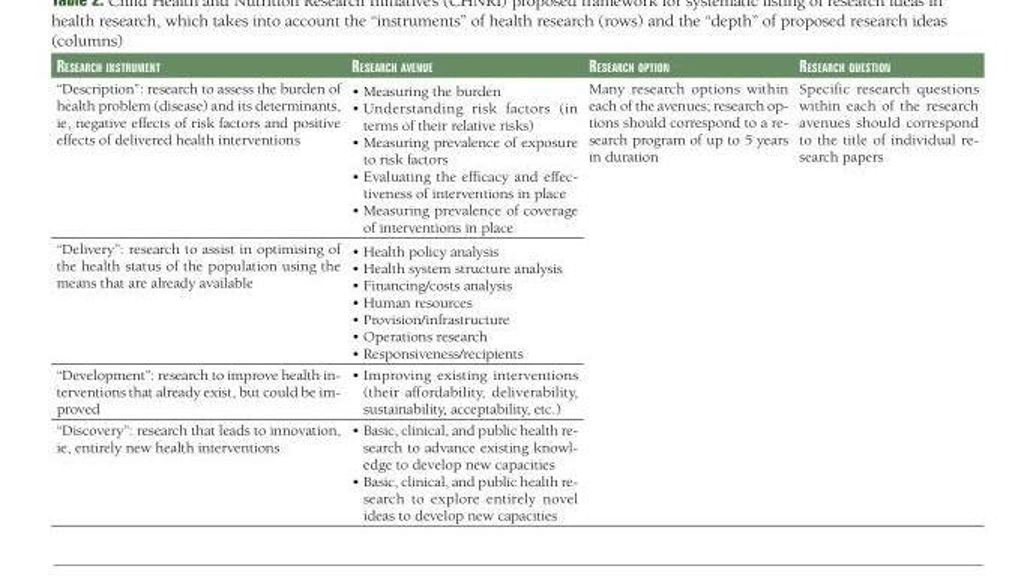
<table><thead><tr><td>ReseaRch instRument</td><td>ReseaRch avenue</td><td>ReseaRch option</td><td>ReseaRch question</td></tr></thead><tbody><tr><td>“Description”: research to assess the burden of health problem (disease) and its determinants, ie, negative effects of risk factors and positive effects of delivered health interventions</td><td>• Measuring the burden • Understanding risk factors (in terms of their relative risks) • Measuring prevalence of exposure to risk factors • Evaluating the efficacy and effec- tiveness of interventions in place • Measuring prevalence of coverage of interventions in place</td><td rowspan="4">Many research options within each of the avenues; research op- tions should correspond to a re- search program of up to 5 years in duration</td><td rowspan="4">Specific research questions within each of the research avenues should correspond to the title of individual re- search papers</td></tr><tr><td>“Delivery”: research to assist in optimising of the health status of the population using the means that are already available</td><td>• Health policy analysis • Health system structure analysis • Financing/costs analysis • Human resources • Provision/infrastructure • Operations research • Responsiveness/recipients</td></tr><tr><td>“Development”: research to improve health in- terventions that already exist, but could be im- proved</td><td>• Improving existing interventions (their affordability, deliverability, sustainability, acceptability, etc.)</td></tr><tr><td>“Discovery”: research that leads to innovation, ie, entirely new health interventions</td><td>• Basic, clinical, and public health re- search to advance existing knowl- edge to develop new capacities • Basic, clinical, and public health re- search to explore entirely novel ideas to develop new capacities</td></tr></tbody></table>